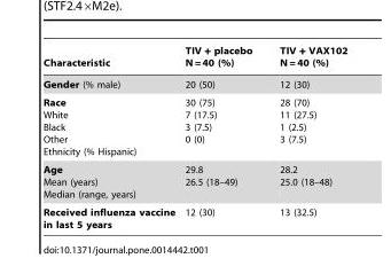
<table><thead><tr><td>Characteristic</td><td>TIV + placebo N = 40 (%)</td><td>TIV + VAX102 N = 40 (%)</td></tr></thead><tbody><tr><td>Gender (% male)</td><td>20 (50)</td><td>12 (30)</td></tr><tr><td>Race White Black Other Ethnicity (% Hispanic)</td><td>30 (75) 7 (17.5) 3 (7.5) 0 (0)</td><td>28 (70) 11 (27.5) 1 (2.5) 3 (7.5)</td></tr><tr><td>Age Mean (years) Median (range, years)</td><td>29.8 26.5 (18–49)</td><td>28.2 25.0 (18–48)</td></tr><tr><td>Received influenza vaccine in last 5 years</td><td>12 (30)</td><td>13 (32.5)</td></tr></tbody></table>